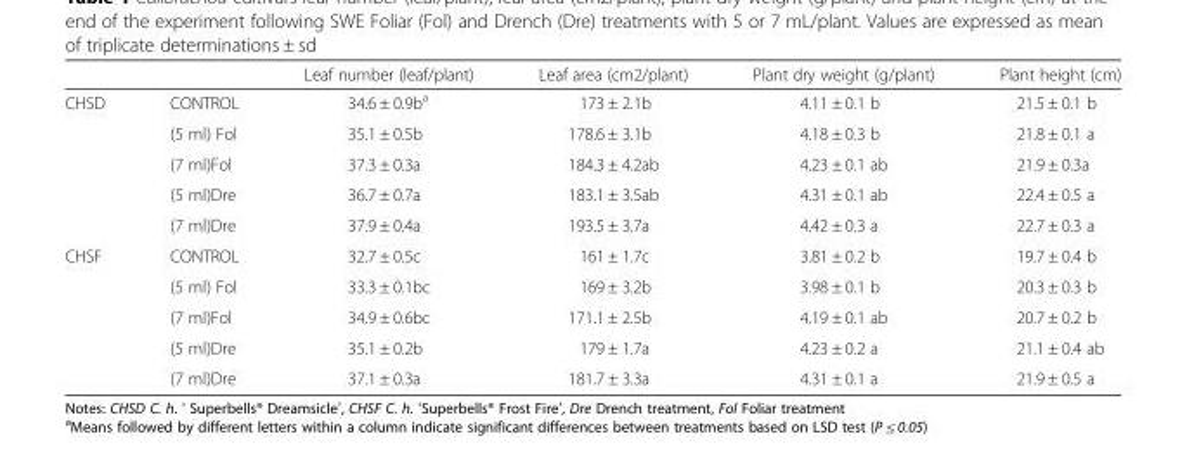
<table><thead><tr><td></td><td></td><td>Leaf number (leaf/plant)</td><td>Leaf area (cm2/plant)</td><td>Plant dry weight (g/plant)</td><td>Plant height (cm)</td></tr></thead><tbody><tr><td rowspan="5">CHSD</td><td>CONTROL</td><td>34.6 ± 0.9b<sup>a</sup></td><td>173 ± 2.1b</td><td>4.11 ± 0.1 b</td><td>21.5 ± 0.1 b</td></tr><tr><td>(5 ml) Fol</td><td>35.1 ± 0.5b</td><td>178.6 ± 3.1b</td><td>4.18 ± 0.3 b</td><td>21.8 ± 0.1 a</td></tr><tr><td>(7 ml)Fol</td><td>37.3 ± 0.3a</td><td>184.3 ± 4.2ab</td><td>4.23 ± 0.1 ab</td><td>21.9 ± 0.3a</td></tr><tr><td>(5 ml)Dre</td><td>36.7 ± 0.7a</td><td>183.1 ± 3.5ab</td><td>4.31 ± 0.1 ab</td><td>22.4 ± 0.5 a</td></tr><tr><td>(7 ml)Dre</td><td>37.9 ± 0.4a</td><td>193.5 ± 3.7a</td><td>4.42 ± 0.3 a</td><td>22.7 ± 0.3 a</td></tr><tr><td rowspan="5">CHSF</td><td>CONTROL</td><td>32.7 ± 0.5c</td><td>161 ± 1.7c</td><td>3.81 ± 0.2 b</td><td>19.7 ± 0.4 b</td></tr><tr><td>(5 ml) Fol</td><td>33.3 ± 0.1bc</td><td>169 ± 3.2b</td><td>3.98 ± 0.1 b</td><td>20.3 ± 0.3 b</td></tr><tr><td>(7 ml)Fol</td><td>34.9 ± 0.6bc</td><td>171.1 ± 2.5b</td><td>4.19 ± 0.1 ab</td><td>20.7 ± 0.2 b</td></tr><tr><td>(5 ml)Dre</td><td>35.1 ± 0.2b</td><td>179 ± 1.7a</td><td>4.23 ± 0.2 a</td><td>21.1 ± 0.4 ab</td></tr><tr><td>(7 ml)Dre</td><td>37.1 ± 0.3a</td><td>181.7 ± 3.3a</td><td>4.31 ± 0.1 a</td><td>21.9 ± 0.5 a</td></tr></tbody></table>